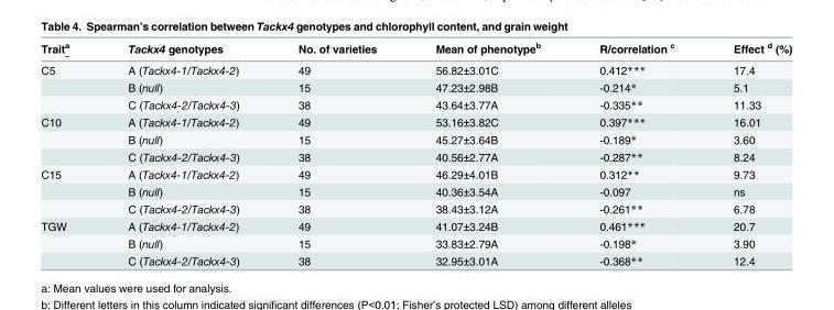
<table><thead><tr><td>Trait<sup>a</sup></td><td>Tackx4 genotypes</td><td>No. of varieties</td><td>Mean of phenotype<sup>b</sup></td><td>R/correlation <sup>c</sup></td><td>Effect <sup>d</sup> (%)</td></tr></thead><tbody><tr><td rowspan="3">C5</td><td>A (Tackx4-1/Tackx4-2)</td><td>49</td><td>56.82±3.01C</td><td>0.412***</td><td>17.4</td></tr><tr><td>B (null)</td><td>15</td><td>47.23±2.98B</td><td>-0.214*</td><td>5.1</td></tr><tr><td>C (Tackx4-2/Tackx4-3)</td><td>38</td><td>43.64±3.77A</td><td>-0.335**</td><td>11.33</td></tr><tr><td rowspan="3">C10</td><td>A (Tackx4-1/Tackx4-2)</td><td>49</td><td>53.16±3.82C</td><td>0.397***</td><td>16.01</td></tr><tr><td>B (null)</td><td>15</td><td>45.27±3.64B</td><td>-0.189*</td><td>3.60</td></tr><tr><td>C (Tackx4-2/Tackx4-3)</td><td>38</td><td>40.56±2.77A</td><td>-0.287**</td><td>8.24</td></tr><tr><td rowspan="3">C15</td><td>A (Tackx4-1/Tackx4-2)</td><td>49</td><td>46.29±4.01B</td><td>0.312**</td><td>9.73</td></tr><tr><td>B (null)</td><td>15</td><td>40.36±3.54A</td><td>-0.097</td><td>ns</td></tr><tr><td>C (Tackx4-2/Tackx4-3)</td><td>38</td><td>38.43±3.12A</td><td>-0.261**</td><td>6.78</td></tr><tr><td rowspan="3">TGW</td><td>A (Tackx4-1/Tackx4-2)</td><td>49</td><td>41.07±3.24B</td><td>0.461***</td><td>20.7</td></tr><tr><td>B (null)</td><td>15</td><td>33.83±2.79A</td><td>-0.198*</td><td>3.90</td></tr><tr><td>C (Tackx4-2/Tackx4-3)</td><td>38</td><td>32.95±3.01A</td><td>-0.368**</td><td>12.4</td></tr></tbody></table>